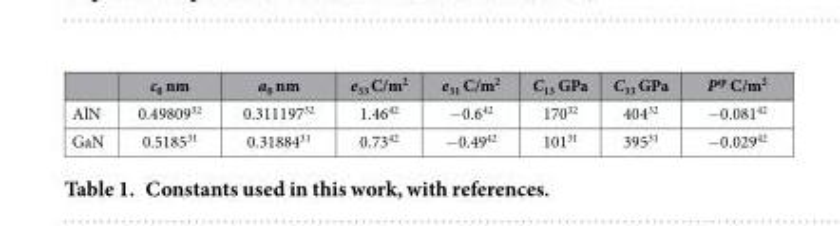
<table><thead><tr><td></td><td>c<sub>0</sub> nm</td><td>a<sub>0</sub> nm</td><td>e<sub>33</sub> C/m<sup>2</sup></td><td>e<sub>31</sub> C/m<sup>2</sup></td><td>C<sub>13</sub> GPa</td><td>C<sub>33</sub> GPa</td><td>P<sup>sp</sup> C/m<sup>2</sup></td></tr></thead><tbody><tr><td>AlN</td><td>0.49809<sup>32</sup></td><td>0.311197<sup>32</sup></td><td>1.46<sup>42</sup></td><td>−0.6<sup>42</sup></td><td>170<sup>32</sup></td><td>404<sup>32</sup></td><td>−0.081<sup>42</sup></td></tr><tr><td>GaN</td><td>0.5185<sup>31</sup></td><td>0.31884<sup>31</sup></td><td>0.73<sup>42</sup></td><td>−0.49<sup>42</sup></td><td>101<sup>31</sup></td><td>395<sup>31</sup></td><td>−0.029<sup>42</sup></td></tr></tbody></table>